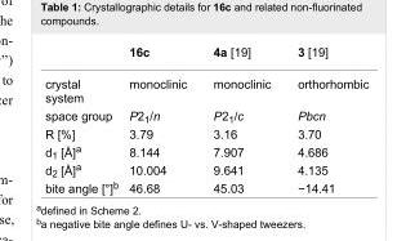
<table><thead><tr><td></td><td>16c</td><td>4a [19]</td><td>3 [19]</td></tr></thead><tbody><tr><td>crystal system</td><td>monoclinic</td><td>monoclinic</td><td>orthorhombic</td></tr><tr><td>space group</td><td>P2<sub>1</sub>/n</td><td>P2<sub>1</sub>/c</td><td>Pbcn</td></tr><tr><td>R [%]</td><td>3.79</td><td>3.16</td><td>3.70</td></tr><tr><td>d<sub>1</sub> [Å]<sup>a</sup></td><td>8.144</td><td>7.907</td><td>4.686</td></tr><tr><td>d<sub>2</sub> [Å]<sup>a</sup></td><td>10.004</td><td>9.641</td><td>4.135</td></tr><tr><td>bite angle [°]<sup>b</sup></td><td>46.68</td><td>45.03</td><td>−14.41</td></tr></tbody></table>